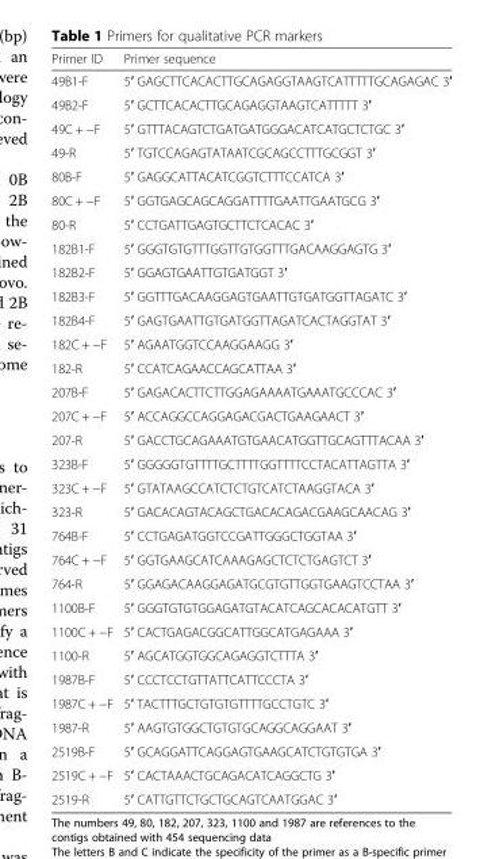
<table><thead><tr><td>Primer ID</td><td>Primer sequence</td></tr></thead><tbody><tr><td>49B1-F</td><td>5′ GAGCTTCACACTTGCAGAGGTAAGTCATTTTTGCAGAGAC 3′</td></tr><tr><td>49B2-F</td><td>5′ GCTTCACACTTGCAGAGGTAAGTCATTTTT 3′</td></tr><tr><td>49C + −F</td><td>5′ GTTTACAGTCTGATGATGGGACATCATGCTCTGC 3′</td></tr><tr><td>49-R</td><td>5′ TGTCCAGAGTATAATCGCAGCCTTTGCGGT 3′</td></tr><tr><td>80B-F</td><td>5′ GAGGCATTACATCGGTCTTTCCATCA 3′</td></tr><tr><td>80C + −F</td><td>5′ GGTGAGCAGCAGGATTTTGAATTGAATGCG 3′</td></tr><tr><td>80-R</td><td>5′ CCTGATTGAGTGCTTCTCACAC 3′</td></tr><tr><td>182B1-F</td><td>5′ GGGTGTGTTTGGTTGTGGTTTGACAAGGAGTG 3′</td></tr><tr><td>182B2-F</td><td>5′ GGAGTGAATTGTGATGGT 3′</td></tr><tr><td>182B3-F</td><td>5′ GGTTTGACAAGGAGTGAATTGTGATGGTTAGATC 3′</td></tr><tr><td>182B4-F</td><td>5′ GAGTGAATTGTGATGGTTAGATCACTAGGTAT 3′</td></tr><tr><td>182C + −F</td><td>5′ AGAATGGTCCAAGGAAGG 3′</td></tr><tr><td>182-R</td><td>5′ CCATCAGAACCAGCATTAA 3′</td></tr><tr><td>207B-F</td><td>5′ GAGACACTTCTTGGAGAAAATGAAATGCCCAC 3′</td></tr><tr><td>207C + −F</td><td>5′ ACCAGGCCAGGAGACGACTGAAGAACT 3′</td></tr><tr><td>207-R</td><td>5′ GACCTGCAGAAATGTGAACATGGTTGCAGTTTACAA 3′</td></tr><tr><td>323B-F</td><td>5′ GGGGGTGTTTTGCTTTTGGTTTTCCTACATTAGTTA 3′</td></tr><tr><td>323C + −F</td><td>5′ GTATAAGCCATCTCTGTCATCTAAGGTACA 3′</td></tr><tr><td>323-R</td><td>5′ GACACAGTACAGCTGACACAGACGAAGCAACAG 3′</td></tr><tr><td>764B-F</td><td>5′ CCTGAGATGGTCCGATTGGGCTGGTAA 3′</td></tr><tr><td>764C + −F</td><td>5′ GGTGAAGCATCAAAGAGCTCTCTGAGTCT 3′</td></tr><tr><td>764-R</td><td>5′ GGAGACAAGGAGATGCGTGTTGGTGAAGTCCTAA 3′</td></tr><tr><td>1100B-F</td><td>5′ GGGTGTGTGGAGATGTACATCAGCACACATGTT 3′</td></tr><tr><td>1100C + −F</td><td>5′ CACTGAGACGGCATTGGCATGAGAAA 3′</td></tr><tr><td>1100-R</td><td>5′ AGCATGGTGGCAGAGGTCTTTA 3′</td></tr><tr><td>1987B-F</td><td>5′ CCCTCCTGTTATTCATTCCCTA 3′</td></tr><tr><td>1987C + −F</td><td>5′ TACTTTGCTGTGTGTTTTGCCTGTC 3′</td></tr><tr><td>1987-R</td><td>5′ AAGTGTGGCTGTGTGCAGGCAGGAAT 3′</td></tr><tr><td>2519B-F</td><td>5′ GCAGGATTCAGGAGTGAAGCATCTGTGTGA 3′</td></tr><tr><td>2519C + −F</td><td>5′ CACTAAACTGCAGACATCAGGCTG 3′</td></tr><tr><td>2519-R</td><td>5′ CATTGTTCTGCTGCAGTCAATGGAC 3′</td></tr></tbody></table>